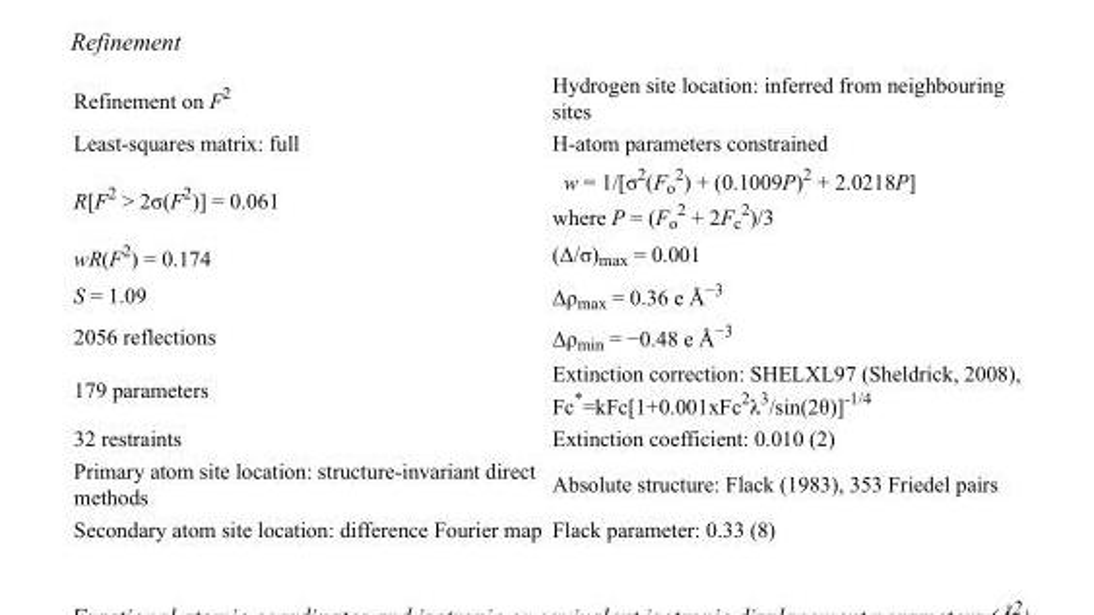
<table><tbody><tr><td>Refinement on F<sup>2</sup></td><td>Hydrogen site location: inferred from neighbouring sites</td></tr><tr><td>Least-squares matrix: full</td><td>H-atom parameters constrained</td></tr><tr><td>R[F<sup>2</sup> &gt; 2σ(F<sup>2</sup>)] = 0.061</td><td>w = 1/[σ<sup>2</sup>(F<sub>o</sub> <sup>2</sup>) + (0.1009P)<sup>2</sup> + 2.0218P] where P = (F<sub>o</sub> <sup>2</sup> + 2F<sub>c</sub> <sup>2</sup>)/3</td></tr><tr><td>wR(F<sup>2</sup>) = 0.174</td><td>(Δ/σ)<sub>max</sub> = 0.001</td></tr><tr><td>S = 1.09</td><td>Δρ<sub>max</sub> = 0.36 e Å<sup>−3</sup></td></tr><tr><td>2056 reflections</td><td>Δρ<sub>min</sub> = −0.48 e Å<sup>−3</sup></td></tr><tr><td>179 parameters</td><td>Extinction correction: SHELXL97 (Sheldrick, 2008), Fc*=kFc[1+0.001xFc<sup>2</sup>λ<sup>3</sup>/sin(2θ)]<sup>-1/4</sup></td></tr><tr><td>32 restraints</td><td>Extinction coefficient: 0.010 (2)</td></tr><tr><td>Primary atom site location: structure-invariant direct methods</td><td>Absolute structure: Flack (1983), 353 Friedel pairs</td></tr><tr><td>Secondary atom site location: difference Fourier map</td><td>Flack parameter: 0.33 (8)</td></tr></tbody></table>